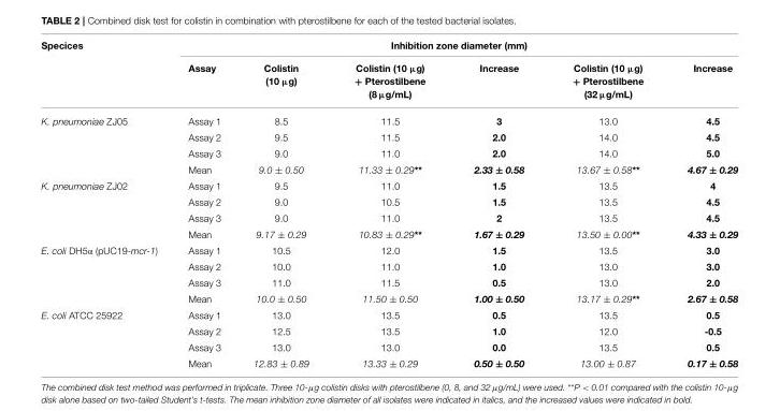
<table><thead><tr><td rowspan="2">Specices</td><td colspan="6">Inhibition zone diameter (mm)</td></tr><tr><td>Assay</td><td>Colistin (10 µg)</td><td>Colistin (10 µg) + Pterostilbene (8 µg/mL)</td><td>Increase</td><td>Colistin (10 µg) + Pterostilbene (32 µg/mL)</td><td>Increase</td></tr></thead><tbody><tr><td rowspan="4">K. pneumoniae ZJ05</td><td>Assay 1</td><td>8.5</td><td>11.5</td><td>3</td><td>13.0</td><td>4.5</td></tr><tr><td>Assay 2</td><td>9.5</td><td>11.5</td><td>2.0</td><td>14.0</td><td>4.5</td></tr><tr><td>Assay 3</td><td>9.0</td><td>11.0</td><td>2.0</td><td>14.0</td><td>5.0</td></tr><tr><td>Mean</td><td>9.0 ± 0.50</td><td>11.33 ± 0.29**</td><td>2.33 ± 0.58</td><td>13.67 ± 0.58**</td><td>4.67 ± 0.29</td></tr><tr><td rowspan="4">K. pneumoniae ZJ02</td><td>Assay 1</td><td>9.5</td><td>11.0</td><td>1.5</td><td>13.5</td><td>4</td></tr><tr><td>Assay 2</td><td>9.0</td><td>10.5</td><td>1.5</td><td>13.5</td><td>4.5</td></tr><tr><td>Assay 3</td><td>9.0</td><td>11.0</td><td>2</td><td>13.5</td><td>4.5</td></tr><tr><td>Mean</td><td>9.17 ± 0.29</td><td>10.83 ± 0.29**</td><td>1.67 ± 0.29</td><td>13.50 ± 0.00**</td><td>4.33 ± 0.29</td></tr><tr><td rowspan="4">E. coli DH5α (pUC19-mcr-1)</td><td>Assay 1</td><td>10.5</td><td>12.0</td><td>1.5</td><td>13.5</td><td>3.0</td></tr><tr><td>Assay 2</td><td>10.0</td><td>11.0</td><td>1.0</td><td>13.0</td><td>3.0</td></tr><tr><td>Assay 3</td><td>11.0</td><td>11.5</td><td>0.5</td><td>13.0</td><td>2.0</td></tr><tr><td>Mean</td><td>10.0 ± 0.50</td><td>11.50 ± 0.50</td><td>1.00 ± 0.50</td><td>13.17 ± 0.29**</td><td>2.67 ± 0.58</td></tr><tr><td rowspan="4">E. coli ATCC 25922</td><td>Assay 1</td><td>13.0</td><td>13.5</td><td>0.5</td><td>13.5</td><td>0.5</td></tr><tr><td>Assay 2</td><td>12.5</td><td>13.5</td><td>1.0</td><td>12.0</td><td>-0.5</td></tr><tr><td>Assay 3</td><td>13.0</td><td>13.0</td><td>0.0</td><td>13.5</td><td>0.5</td></tr><tr><td>Mean</td><td>12.83 ± 0.89</td><td>13.33 ± 0.29</td><td>0.50 ± 0.50</td><td>13.00 ± 0.87</td><td>0.17 ± 0.58</td></tr></tbody></table>